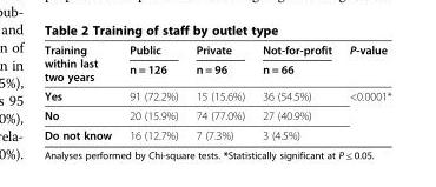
<table><thead><tr><td rowspan="2">Training within last two years</td><td rowspan="2">Public n = 126</td><td rowspan="2">Private n = 96</td><td rowspan="2">Not-for-profit n = 66</td><td rowspan="2">P-value</td></tr><tr></tr></thead><tbody><tr><td>Yes</td><td>91 (72.2%)</td><td>15 (15.6%)</td><td>36 (54.5%)</td><td>&lt;0.0001*</td></tr><tr><td>No</td><td>20 (15.9%)</td><td>74 (77.0%)</td><td>27 (40.9%)</td><td></td></tr><tr><td>Do not know</td><td>16 (12.7%)</td><td>7 (7.3%)</td><td>3 (4.5%)</td><td></td></tr></tbody></table>